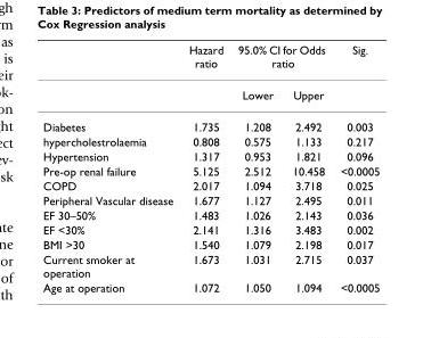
<table><thead><tr><td rowspan="2"></td><td rowspan="2">Hazard ratio</td><td colspan="2">95.0% CI for Odds ratio</td><td rowspan="2">Sig.</td></tr><tr><td>Lower</td><td>Upper</td></tr></thead><tbody><tr><td>Diabetes</td><td>1.735</td><td>1.208</td><td>2.492</td><td>0.003</td></tr><tr><td>hypercholestrolaemia</td><td>0.808</td><td>0.575</td><td>1.133</td><td>0.217</td></tr><tr><td>Hypertension</td><td>1.317</td><td>0.953</td><td>1.821</td><td>0.096</td></tr><tr><td>Pre-op renal failure</td><td>5.125</td><td>2.512</td><td>10.458</td><td>&lt;0.0005</td></tr><tr><td>COPD</td><td>2.017</td><td>1.094</td><td>3.718</td><td>0.025</td></tr><tr><td>Peripheral Vascular disease</td><td>1.677</td><td>1.127</td><td>2.495</td><td>0.011</td></tr><tr><td>EF 30–50%</td><td>1.483</td><td>1.026</td><td>2.143</td><td>0.036</td></tr><tr><td>EF &lt;30%</td><td>2.141</td><td>1.316</td><td>3.483</td><td>0.002</td></tr><tr><td>BMI &gt;30</td><td>1.540</td><td>1.079</td><td>2.198</td><td>0.017</td></tr><tr><td>Current smoker at operation</td><td>1.673</td><td>1.031</td><td>2.715</td><td>0.037</td></tr><tr><td>Age at operation</td><td>1.072</td><td>1.050</td><td>1.094</td><td>&lt;0.0005</td></tr></tbody></table>